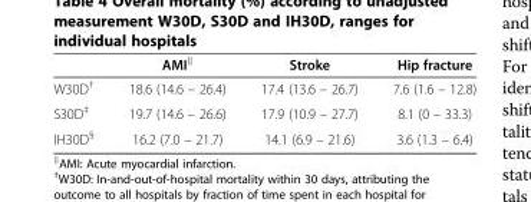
<table><thead><tr><td></td><td>AMI<sup>∥</sup></td><td>Stroke</td><td>Hip fracture</td></tr></thead><tbody><tr><td>W30D<sup>†</sup></td><td>18.6 (14.6 – 26.4)</td><td>17.4 (13.6 – 26.7)</td><td>7.6 (1.6 – 12.8)</td></tr><tr><td>S30D<sup>‡</sup></td><td>19.7 (14.6 – 26.6)</td><td>17.9 (10.9 – 27.7)</td><td>8.1 (0 – 33.3)</td></tr><tr><td>IH30D<sup>§</sup></td><td>16.2 (7.0 – 21.7)</td><td>14.1 (6.9 – 21.6)</td><td>3.6 (1.3 – 6.4)</td></tr></tbody></table>